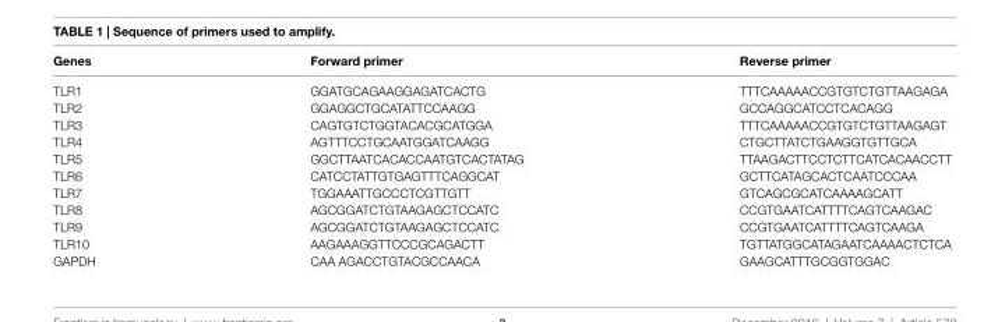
<table><thead><tr><td>genes</td><td>Forward primer</td><td>reverse primer</td></tr></thead><tbody><tr><td>TLR1</td><td>GGATGCAGAAGGAGATCACTG</td><td>TTTCAAAAACCGTGTCTGTTAAGAGA</td></tr><tr><td>TLR2</td><td>GGAGGCTGCATATTCCAAGG</td><td>GCCAGGCATCCTCACAGG</td></tr><tr><td>TLR3</td><td>CAGTGTCTGGTACACGCATGGA</td><td>TTTCAAAAACCGTGTCTGTTAAGAGT</td></tr><tr><td>TLR4</td><td>AGTTTCCTGCAATGGATCAAGG</td><td>CTGCTTATCTGAAGGTGTTGCA</td></tr><tr><td>TLR5</td><td>GGCTTAATCACACCAATGTCACTATAG</td><td>TTAAGACTTCCTCTTCATCACAACCTT</td></tr><tr><td>TLR6</td><td>CATCCTATTGTGAGTTTCAGGCAT</td><td>GCTTCATAGCACTCAATCCCAA</td></tr><tr><td>TLR7</td><td>TGGAAATTGCCCTCGTTGTT</td><td>GTCAGCGCATCAAAAGCATT</td></tr><tr><td>TLR8</td><td>AGCGGATCTGTAAGAGCTCCATC</td><td>CCGTGAATCATTTTCAGTCAAGAC</td></tr><tr><td>TLR9</td><td>AGCGGATCTGTAAGAGCTCCATC</td><td>CCGTGAATCATTTTCAGTCAAGA</td></tr><tr><td>TLR10</td><td>AAGAAAGGTTCCCGCAGACTT</td><td>TGTTATGGCATAGAATCAAAACTCTCA</td></tr><tr><td>GAPDH</td><td>CAA AGACCTGTACGCCAACA</td><td>GAAGCATTTGCGGTGGAC</td></tr></tbody></table>